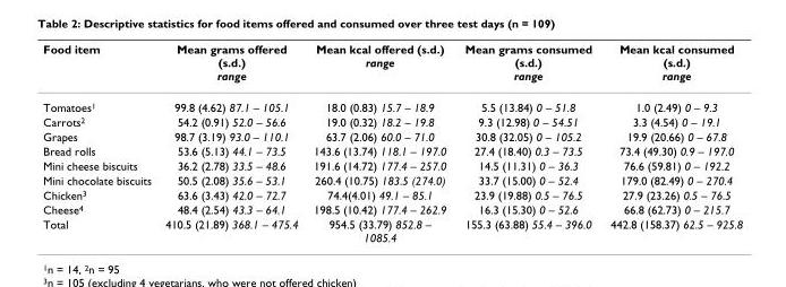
<table><thead><tr><td>Food item</td><td>Mean grams offered (s.d.) range</td><td>Mean kcal offered (s.d.) range</td><td>Mean grams consumed (s.d.) range</td><td>Mean kcal consumed (s.d.) range</td></tr></thead><tbody><tr><td>Tomatoes<sup>1</sup></td><td>99.8 (4.62) 87.1 – 105.1</td><td>18.0 (0.83) 15.7 – 18.9</td><td>5.5 (13.84) 0 – 51.8</td><td>1.0 (2.49) 0 – 9.3</td></tr><tr><td>Carrots<sup>2</sup></td><td>54.2 (0.91) 52.0 – 56.6</td><td>19.0 (0.32) 18.2 – 19.8</td><td>9.3 (12.98) 0 – 54.51</td><td>3.3 (4.54) 0 – 19.1</td></tr><tr><td>Grapes</td><td>98.7 (3.19) 93.0 – 110.1</td><td>63.7 (2.06) 60.0 – 71.0</td><td>30.8 (32.05) 0 – 105.2</td><td>19.9 (20.66) 0 – 67.8</td></tr><tr><td>Bread rolls</td><td>53.6 (5.13) 44.1 – 73.5</td><td>143.6 (13.74) 118.1 – 197.0</td><td>27.4 (18.40) 0.3 – 73.5</td><td>73.4 (49.30) 0.9 – 197.0</td></tr><tr><td>Mini cheese biscuits</td><td>36.2 (2.78) 33.5 – 48.6</td><td>191.6 (14.72) 177.4 – 257.0</td><td>14.5 (11.31) 0 – 36.3</td><td>76.6 (59.81) 0 – 192.2</td></tr><tr><td>Mini chocolate biscuits</td><td>50.5 (2.08) 35.6 – 53.1</td><td>260.4 (10.75) 183.5 (274.0)</td><td>33.7 (15.00) 0 – 52.4</td><td>179.0 (82.49) 0 – 270.4</td></tr><tr><td>Chicken<sup>3</sup></td><td>63.6 (3.43) 42.0 – 72.7</td><td>74.4(4.01) 49.1 – 85.1</td><td>23.9 (19.88) 0.5 – 76.5</td><td>27.9 (23.26) 0.5 – 76.5</td></tr><tr><td>Cheese<sup>4</sup></td><td>48.4 (2.54) 43.3 – 64.1</td><td>198.5 (10.42) 177.4 – 262.9</td><td>16.3 (15.30) 0 – 52.6</td><td>66.8 (62.73) 0 – 215.7</td></tr><tr><td>Total</td><td>410.5 (21.89) 368.1 – 475.4</td><td>954.5 (33.79) 852.8 – 1085.4</td><td>155.3 (63.88) 55.4 – 396.0</td><td>442.8 (158.37) 62.5 – 925.8</td></tr></tbody></table>